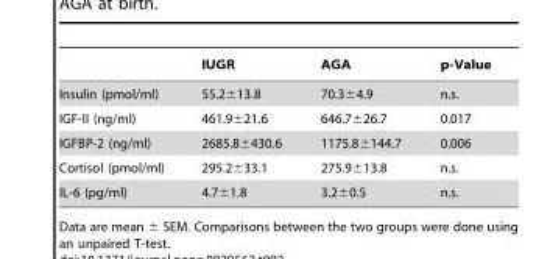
<table><thead><tr><td></td><td>IUGR</td><td>AGA</td><td>p-Value</td></tr></thead><tbody><tr><td>Insulin (pmol/ml)</td><td>55.2±13.8</td><td>70.3±4.9</td><td>n.s.</td></tr><tr><td>IGF-II (ng/ml)</td><td>461.9±21.6</td><td>646.7±26.7</td><td>0.017</td></tr><tr><td>IGFBP-2 (ng/ml)</td><td>2685.8±430.6</td><td>1175.8±144.7</td><td>0.006</td></tr><tr><td>Cortisol (pmol/ml)</td><td>295.2±33.1</td><td>275.9±13.8</td><td>n.s.</td></tr><tr><td>IL-6 (pg/ml)</td><td>4.7±1.8</td><td>3.2±0.5</td><td>n.s.</td></tr></tbody></table>